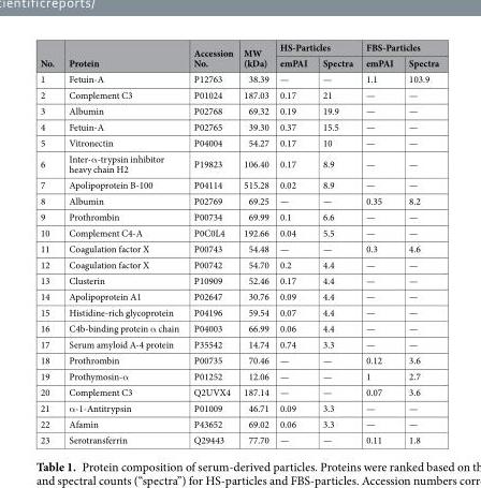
<table><thead><tr><td rowspan="2">No.</td><td rowspan="2">Protein</td><td rowspan="2">Accession No.</td><td rowspan="2">MW (kDa)</td><td colspan="2">HS-Particles</td><td colspan="2">FBS-Particles</td></tr><tr><td>emPAI</td><td>Spectra</td><td>emPAI</td><td>Spectra</td></tr></thead><tbody><tr><td>1</td><td>Fetuin-A</td><td>P12763</td><td>38.39</td><td>—</td><td>—</td><td>1.1</td><td>103.9</td></tr><tr><td>2</td><td>Complement C3</td><td>P01024</td><td>187.03</td><td>0.17</td><td>21</td><td>—</td><td>—</td></tr><tr><td>3</td><td>Albumin</td><td>P02768</td><td>69.32</td><td>0.19</td><td>19.9</td><td>—</td><td>—</td></tr><tr><td>4</td><td>Fetuin-A</td><td>P02765</td><td>39.30</td><td>0.37</td><td>15.5</td><td>—</td><td>—</td></tr><tr><td>5</td><td>Vitronectin</td><td>P04004</td><td>54.27</td><td>0.17</td><td>10</td><td>—</td><td>—</td></tr><tr><td>6</td><td>Inter-α-trypsin inhibitor heavy chain H2</td><td>P19823</td><td>106.40</td><td>0.17</td><td>8.9</td><td>—</td><td>—</td></tr><tr><td>7</td><td>Apolipoprotein B-100</td><td>P04114</td><td>515.28</td><td>0.02</td><td>8.9</td><td>—</td><td>—</td></tr><tr><td>8</td><td>Albumin</td><td>P02769</td><td>69.25</td><td>—</td><td>—</td><td>0.35</td><td>8.2</td></tr><tr><td>9</td><td>Prothrombin</td><td>P00734</td><td>69.99</td><td>0.1</td><td>6.6</td><td>—</td><td>—</td></tr><tr><td>10</td><td>Complement C4-A</td><td>P0C0L4</td><td>192.66</td><td>0.04</td><td>5.5</td><td>—</td><td>—</td></tr><tr><td>11</td><td>Coagulation factor X</td><td>P00743</td><td>54.48</td><td>—</td><td>—</td><td>0.3</td><td>4.6</td></tr><tr><td>12</td><td>Coagulation factor X</td><td>P00742</td><td>54.70</td><td>0.2</td><td>4.4</td><td>—</td><td>—</td></tr><tr><td>13</td><td>Clusterin</td><td>P10909</td><td>52.46</td><td>0.17</td><td>4.4</td><td>—</td><td>—</td></tr><tr><td>14</td><td>Apolipoprotein A1</td><td>P02647</td><td>30.76</td><td>0.09</td><td>4.4</td><td>—</td><td>—</td></tr><tr><td>15</td><td>Histidine-rich glycoprotein</td><td>P04196</td><td>59.54</td><td>0.07</td><td>4.4</td><td>—</td><td>—</td></tr><tr><td>16</td><td>C4b-binding protein α chain</td><td>P04003</td><td>66.99</td><td>0.06</td><td>4.4</td><td>—</td><td>—</td></tr><tr><td>17</td><td>Serum amyloid A-4 protein</td><td>P35542</td><td>14.74</td><td>0.74</td><td>3.3</td><td>—</td><td>—</td></tr><tr><td>18</td><td>Prothrombin</td><td>P00735</td><td>70.46</td><td>—</td><td>—</td><td>0.12</td><td>3.6</td></tr><tr><td>19</td><td>Prothymosin-α</td><td>P01252</td><td>12.06</td><td>—</td><td>—</td><td>1</td><td>2.7</td></tr><tr><td>20</td><td>Complement C3</td><td>Q2UVX4</td><td>187.14</td><td>—</td><td>—</td><td>0.07</td><td>3.6</td></tr><tr><td>21</td><td>α-1-Antitrypsin</td><td>P01009</td><td>46.71</td><td>0.09</td><td>3.3</td><td>—</td><td>—</td></tr><tr><td>22</td><td>Afamin</td><td>P43652</td><td>69.02</td><td>0.06</td><td>3.3</td><td>—</td><td>—</td></tr><tr><td>23</td><td>Serotransferrin</td><td>Q29443</td><td>77.70</td><td>—</td><td>—</td><td>0.11</td><td>1.8</td></tr></tbody></table>